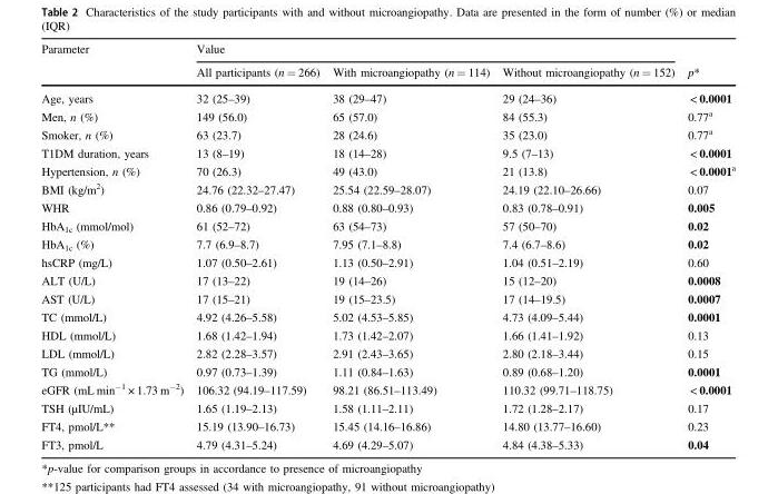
<table><thead><tr><td rowspan="2">Parameter</td><td colspan="3">Value</td><td rowspan="2">p*</td></tr><tr><td>All participants (n = 266)</td><td>With microangiopathy (n = 114)</td><td>Without microangiopathy (n = 152)</td></tr></thead><tbody><tr><td>Age, years</td><td>32 (25–39)</td><td>38 (29–47)</td><td>29 (24–36)</td><td>&lt; 0.0001</td></tr><tr><td>Men, n (%)</td><td>149 (56.0)</td><td>65 (57.0)</td><td>84 (55.3)</td><td>0.77<sup>a</sup></td></tr><tr><td>Smoker, n (%)</td><td>63 (23.7)</td><td>28 (24.6)</td><td>35 (23.0)</td><td>0.77<sup>a</sup></td></tr><tr><td>T1DM duration, years</td><td>13 (8–19)</td><td>18 (14–28)</td><td>9.5 (7–13)</td><td>&lt; 0.0001</td></tr><tr><td>Hypertension, n (%)</td><td>70 (26.3)</td><td>49 (43.0)</td><td>21 (13.8)</td><td>&lt; 0.0001<sup>a</sup></td></tr><tr><td>BMI (kg/m<sup>2</sup>)</td><td>24.76 (22.32–27.47)</td><td>25.54 (22.59–28.07)</td><td>24.19 (22.10–26.66)</td><td>0.07</td></tr><tr><td>WHR</td><td>0.86 (0.79–0.92)</td><td>0.88 (0.80–0.93)</td><td>0.83 (0.78–0.91)</td><td>0.005</td></tr><tr><td>HbA<sub>1c</sub> (mmol/mol)</td><td>61 (52–72)</td><td>63 (54–73)</td><td>57 (50–70)</td><td>0.02</td></tr><tr><td>HbA<sub>1c</sub> (%)</td><td>7.7 (6.9–8.7)</td><td>7.95 (7.1–8.8)</td><td>7.4 (6.7–8.6)</td><td>0.02</td></tr><tr><td>hsCRP (mg/L)</td><td>1.07 (0.50–2.61)</td><td>1.13 (0.50–2.91)</td><td>1.04 (0.51–2.19)</td><td>0.60</td></tr><tr><td>ALT (U/L)</td><td>17 (13–22)</td><td>19 (14–26)</td><td>15 (12–20)</td><td>0.0008</td></tr><tr><td>AST (U/L)</td><td>17 (15–21)</td><td>19 (15–23.5)</td><td>17 (14–19.5)</td><td>0.0007</td></tr><tr><td>TC (mmol/L)</td><td>4.92 (4.26–5.58)</td><td>5.02 (4.53–5.85)</td><td>4.73 (4.09–5.44)</td><td>0.0001</td></tr><tr><td>HDL (mmol/L)</td><td>1.68 (1.42–1.94)</td><td>1.73 (1.42–2.07)</td><td>1.66 (1.41–1.92)</td><td>0.13</td></tr><tr><td>LDL (mmol/L)</td><td>2.82 (2.28–3.57)</td><td>2.91 (2.43–3.65)</td><td>2.80 (2.18–3.44)</td><td>0.15</td></tr><tr><td>TG (mmol/L)</td><td>0.97 (0.73–1.39)</td><td>1.11 (0.84–1.63)</td><td>0.89 (0.68–1.20)</td><td>0.0001</td></tr><tr><td>eGFR (mL min<sup>−1</sup> × 1.73 m<sup>−2</sup>)</td><td>106.32 (94.19–117.59)</td><td>98.21 (86.51–113.49)</td><td>110.32 (99.71–118.75)</td><td>&lt; 0.0001</td></tr><tr><td>TSH (µIU/mL)</td><td>1.65 (1.19–2.13)</td><td>1.58 (1.11–2.11)</td><td>1.72 (1.28–2.17)</td><td>0.17</td></tr><tr><td>FT4, pmol/L**</td><td>15.19 (13.90–16.73)</td><td>15.45 (14.16–16.86)</td><td>14.80 (13.77–16.60)</td><td>0.23</td></tr><tr><td>FT3, pmol/L</td><td>4.79 (4.31–5.24)</td><td>4.69 (4.29–5.07)</td><td>4.84 (4.38–5.33)</td><td>0.04</td></tr></tbody></table>